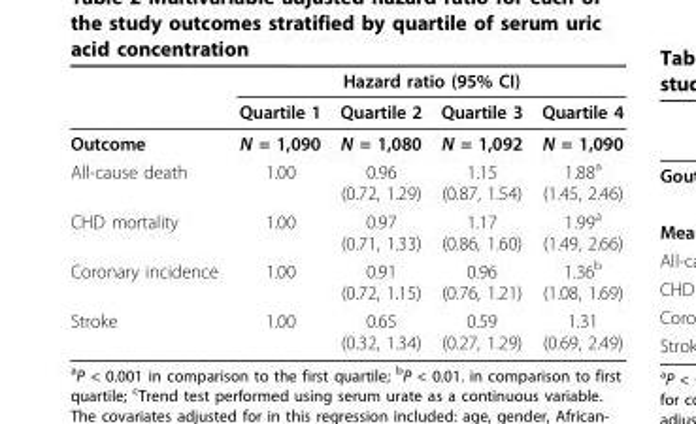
<table><thead><tr><td rowspan="2"></td><td colspan="4">Hazard ratio (95% CI)</td></tr><tr><td>Quartile 1</td><td>Quartile 2</td><td>Quartile 3</td><td>Quartile 4</td></tr></thead><tbody><tr><td>Outcome</td><td>N = 1,090</td><td>N = 1,080</td><td>N = 1,092</td><td>N = 1,090</td></tr><tr><td>All-cause death</td><td>1.00</td><td>0.96 (0.72, 1.29)</td><td>1.15 (0.87, 1.54)</td><td>1.88<sup>a</sup> (1.45, 2.46)</td></tr><tr><td>CHD mortality</td><td>1.00</td><td>0.97 (0.71, 1.33)</td><td>1.17 (0.86, 1.60)</td><td>1.99<sup>a</sup> (1.49, 2.66)</td></tr><tr><td>Coronary incidence</td><td>1.00</td><td>0.91 (0.72, 1.15)</td><td>0.96 (0.76, 1.21)</td><td>1.36<sup>b</sup> (1.08, 1.69)</td></tr><tr><td>Stroke</td><td>1.00</td><td>0.65 (0.32, 1.34)</td><td>0.59 (0.27, 1.29)</td><td>1.31 (0.69, 2.49)</td></tr></tbody></table>